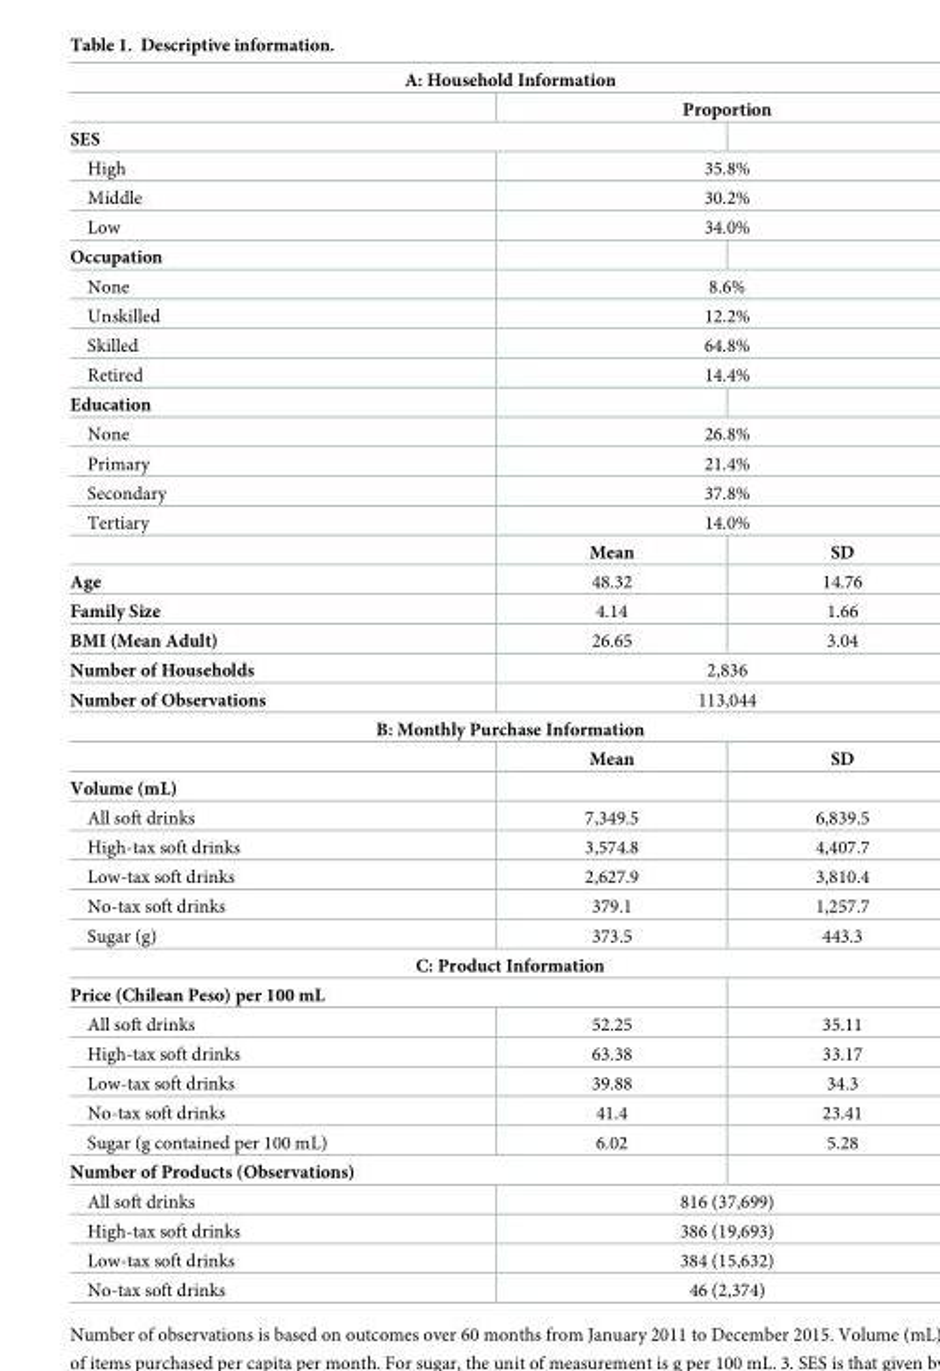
<table><tbody><tr><td colspan="3">A: Household Information</td></tr><tr><td></td><td colspan="2">Proportion</td></tr><tr><td colspan="3">SES</td></tr><tr><td>High</td><td colspan="2">35.8%</td></tr><tr><td>Middle</td><td colspan="2">30.2%</td></tr><tr><td>Low</td><td colspan="2">34.0%</td></tr><tr><td colspan="3">Occupation</td></tr><tr><td>None</td><td colspan="2">8.6%</td></tr><tr><td>Unskilled</td><td colspan="2">12.2%</td></tr><tr><td>Skilled</td><td colspan="2">64.8%</td></tr><tr><td>Retired</td><td colspan="2">14.4%</td></tr><tr><td colspan="3">Education</td></tr><tr><td>None</td><td colspan="2">26.8%</td></tr><tr><td>Primary</td><td colspan="2">21.4%</td></tr><tr><td>Secondary</td><td colspan="2">37.8%</td></tr><tr><td rowspan="2">Tertiary</td><td colspan="2">14.0%</td></tr><tr><td>Mean</td><td>SD</td></tr><tr><td>Age</td><td>48.32</td><td>14.76</td></tr><tr><td>Family Size</td><td>4.14</td><td>1.66</td></tr><tr><td>BMI (Mean Adult)</td><td>26.65</td><td>3.04</td></tr><tr><td>Number of Households</td><td colspan="2">2,836</td></tr><tr><td>Number of Observations</td><td colspan="2">113,044</td></tr><tr><td colspan="3">B: Monthly Purchase Information</td></tr><tr><td></td><td>Mean</td><td>SD</td></tr><tr><td colspan="3">Volume (mL)</td></tr><tr><td>All soft drinks</td><td>7,349.5</td><td>6,839.5</td></tr><tr><td>High-tax soft drinks</td><td>3,574.8</td><td>4,407.7</td></tr><tr><td>Low-tax soft drinks</td><td>2,627.9</td><td>3,810.4</td></tr><tr><td>No-tax soft drinks</td><td>379.1</td><td>1,257.7</td></tr><tr><td>Sugar (g)</td><td>373.5</td><td>443.3</td></tr><tr><td colspan="3">C: Product Information</td></tr><tr><td colspan="3">Price (Chilean Peso) per 100 mL</td></tr><tr><td>All soft drinks</td><td>52.25</td><td>35.11</td></tr><tr><td>High-tax soft drinks</td><td>63.38</td><td>33.17</td></tr><tr><td>Low-tax soft drinks</td><td>39.88</td><td>34.3</td></tr><tr><td>No-tax soft drinks</td><td>41.4</td><td>23.41</td></tr><tr><td>Sugar (g contained per 100 mL)</td><td>6.02</td><td>5.28</td></tr><tr><td colspan="3">Number of Products (Observations)</td></tr><tr><td>All soft drinks</td><td colspan="2">816 (37,699)</td></tr><tr><td>High-tax soft drinks</td><td colspan="2">386 (19,693)</td></tr><tr><td>Low-tax soft drinks</td><td colspan="2">384 (15,632)</td></tr><tr><td>No-tax soft drinks</td><td colspan="2">46 (2,374)</td></tr></tbody></table>